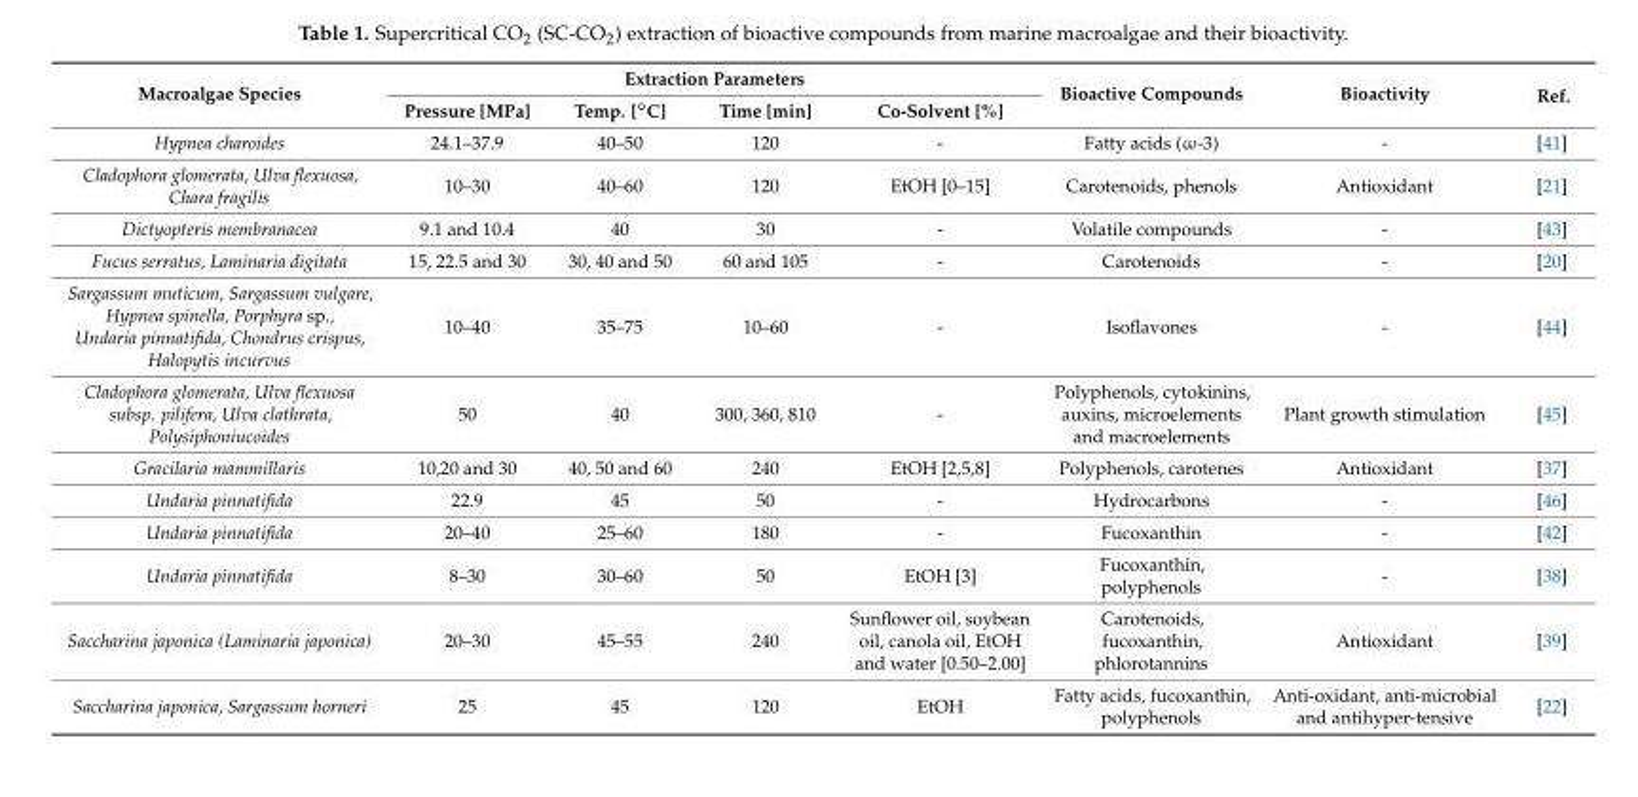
<table><thead><tr><td rowspan="2">Macroalgae Species</td><td colspan="4">Extraction Parameters</td><td rowspan="2">Bioactive Compounds</td><td rowspan="2">Bioactivity</td><td rowspan="2">Ref.</td></tr><tr><td>Pressure [MPa]</td><td>Temp. [◦C]</td><td>Time [min]</td><td>Co-Solvent [%]</td></tr></thead><tbody><tr><td>Hypnea charoides</td><td>24.1–37.9</td><td>40–50</td><td>120</td><td>-</td><td>Fatty acids (ω-3)</td><td>-</td><td>[41]</td></tr><tr><td>Cladophora glomerata, Ulva flexuosa, Chara fragilis</td><td>10–30</td><td>40–60</td><td>120</td><td>EtOH [0–15]</td><td>Carotenoids, phenols</td><td>Antioxidant</td><td>[21]</td></tr><tr><td>Dictyopteris membranacea</td><td>9.1 and 10.4</td><td>40</td><td>30</td><td>-</td><td>Volatile compounds</td><td>-</td><td>[43]</td></tr><tr><td>Fucus serratus, Laminaria digitata</td><td>15, 22.5 and 30</td><td>30, 40 and 50</td><td>60 and 105</td><td>-</td><td>Carotenoids</td><td>-</td><td>[20]</td></tr><tr><td>Sargassum muticum, Sargassum vulgare, Hypnea spinella, Porphyra sp., Undaria pinnatifida, Chondrus crispus, Halopytis incurvus</td><td>10–40</td><td>35–75</td><td>10–60</td><td>-</td><td>Isoflavones</td><td>-</td><td>[44]</td></tr><tr><td>Cladophora glomerata, Ulva flexuosa subsp. pilifera, Ulva clathrata, Polysiphoniucoides</td><td>50</td><td>40</td><td>300, 360, 810</td><td>-</td><td>Polyphenols, cytokinins, auxins, microelements and macroelements</td><td>Plant growth stimulation</td><td>[45]</td></tr><tr><td>Gracilaria mammillaris</td><td>10,20 and 30</td><td>40, 50 and 60</td><td>240</td><td>EtOH [2,5,8]</td><td>Polyphenols, carotenes</td><td>Antioxidant</td><td>[37]</td></tr><tr><td>Undaria pinnatifida</td><td>22.9</td><td>45</td><td>50</td><td>-</td><td>Hydrocarbons</td><td>-</td><td>[46]</td></tr><tr><td>Undaria pinnatifida</td><td>20–40</td><td>25–60</td><td>180</td><td>-</td><td>Fucoxanthin</td><td>-</td><td>[42]</td></tr><tr><td>Undaria pinnatifida</td><td>8–30</td><td>30–60</td><td>50</td><td>EtOH [3]</td><td>Fucoxanthin, polyphenols</td><td>-</td><td>[38]</td></tr><tr><td>Saccharina japonica (Laminaria japonica)</td><td>20–30</td><td>45–55</td><td>240</td><td>Sunflower oil, soybean oil, canola oil, EtOH and water [0.50–2.00]</td><td>Carotenoids, fucoxanthin, phlorotannins</td><td>Antioxidant</td><td>[39]</td></tr><tr><td>Saccharina japonica, Sargassum horneri</td><td>25</td><td>45</td><td>120</td><td>EtOH</td><td>Fatty acids, fucoxanthin, polyphenols</td><td>Anti-oxidant, anti-microbial and antihyper-tensive</td><td>[22]</td></tr></tbody></table>